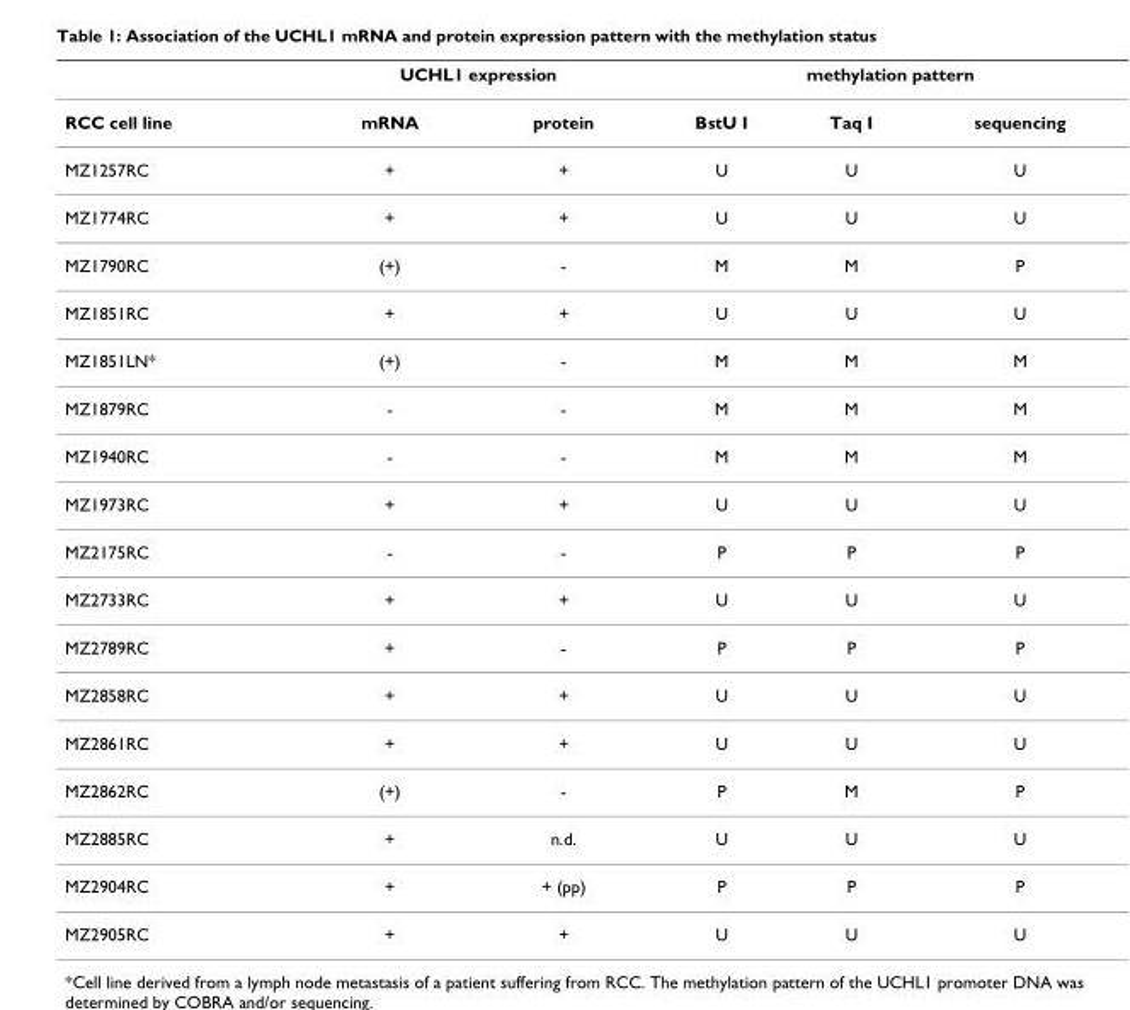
<table><thead><tr><td rowspan="2">RCC cell line</td><td colspan="2">UCHL1 expression</td><td colspan="3">methylation pattern</td></tr><tr><td>mRNA</td><td>protein</td><td>BstU I</td><td>Taq I</td><td>sequencing</td></tr></thead><tbody><tr><td>MZ1257RC</td><td>+</td><td>+</td><td>U</td><td>U</td><td>U</td></tr><tr><td>MZ1774RC</td><td>+</td><td>+</td><td>U</td><td>U</td><td>U</td></tr><tr><td>MZ1790RC</td><td>(+)</td><td>-</td><td>M</td><td>M</td><td>P</td></tr><tr><td>MZ1851RC</td><td>+</td><td>+</td><td>U</td><td>U</td><td>U</td></tr><tr><td>MZ1851LN*</td><td>(+)</td><td>-</td><td>M</td><td>M</td><td>M</td></tr><tr><td>MZ1879RC</td><td>-</td><td>-</td><td>M</td><td>M</td><td>M</td></tr><tr><td>MZ1940RC</td><td>-</td><td>-</td><td>M</td><td>M</td><td>M</td></tr><tr><td>MZ1973RC</td><td>+</td><td>+</td><td>U</td><td>U</td><td>U</td></tr><tr><td>MZ2175RC</td><td>-</td><td>-</td><td>P</td><td>P</td><td>P</td></tr><tr><td>MZ2733RC</td><td>+</td><td>+</td><td>U</td><td>U</td><td>U</td></tr><tr><td>MZ2789RC</td><td>+</td><td>-</td><td>P</td><td>P</td><td>P</td></tr><tr><td>MZ2858RC</td><td>+</td><td>+</td><td>U</td><td>U</td><td>U</td></tr><tr><td>MZ2861RC</td><td>+</td><td>+</td><td>U</td><td>U</td><td>U</td></tr><tr><td>MZ2862RC</td><td>(+)</td><td>-</td><td>P</td><td>M</td><td>P</td></tr><tr><td>MZ2885RC</td><td>+</td><td>n.d.</td><td>U</td><td>U</td><td>U</td></tr><tr><td>MZ2904RC</td><td>+</td><td>+ (pp)</td><td>P</td><td>P</td><td>P</td></tr><tr><td>MZ2905RC</td><td>+</td><td>+</td><td>U</td><td>U</td><td>U</td></tr></tbody></table>